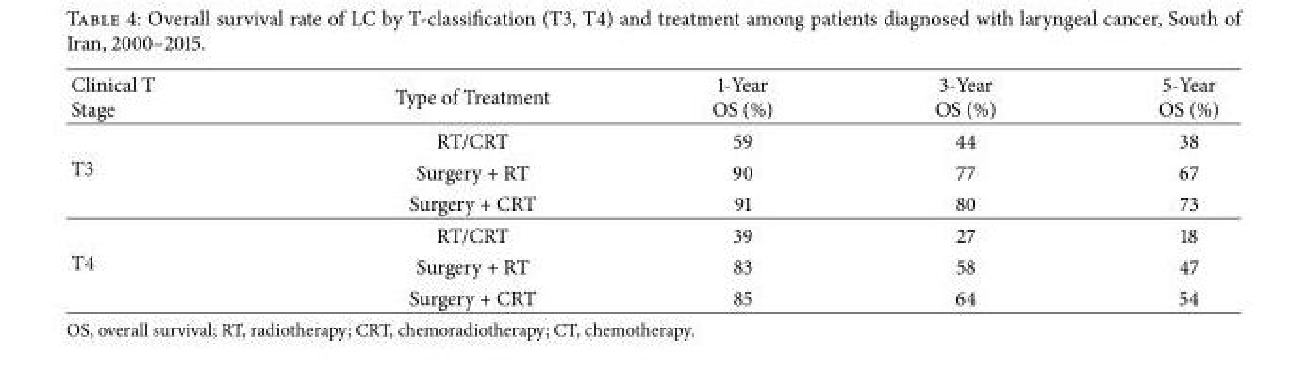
<table><thead><tr><td>Clinical T Stage</td><td>Type of Treatment</td><td>1-Year OS (%)</td><td>3-Year OS (%)</td><td>5-Year OS (%)</td></tr></thead><tbody><tr><td rowspan="3">T3</td><td>RT/CRT</td><td>59</td><td>44</td><td>38</td></tr><tr><td>Surgery + RT</td><td>90</td><td>77</td><td>67</td></tr><tr><td>Surgery + CRT</td><td>91</td><td>80</td><td>73</td></tr><tr><td rowspan="3">T4</td><td>RT/CRT</td><td>39</td><td>27</td><td>18</td></tr><tr><td>Surgery + RT</td><td>83</td><td>58</td><td>47</td></tr><tr><td>Surgery + CRT</td><td>85</td><td>64</td><td>54</td></tr></tbody></table>